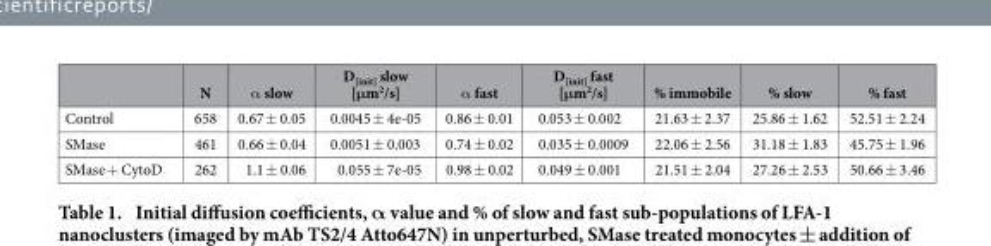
<table><thead><tr><td></td><td>N</td><td>α slow</td><td>D<sub>[init]</sub> slow [μm<sup>2</sup>/s]</td><td>α fast</td><td>D<sub>[init]</sub> fast [μm<sup>2</sup>/s]</td><td>% immobile</td><td>% slow</td><td>% fast</td></tr></thead><tbody><tr><td>Control</td><td>658</td><td>0.67 ± 0.05</td><td>0.0045 ± 4e-05</td><td>0.86 ± 0.01</td><td>0.053 ± 0.002</td><td>21.63 ± 2.37</td><td>25.86 ± 1.62</td><td>52.51 ± 2.24</td></tr><tr><td>SMase</td><td>461</td><td>0.66 ± 0.04</td><td>0.0051 ± 0.003</td><td>0.74 ± 0.02</td><td>0.035 ± 0.0009</td><td>22.06 ± 2.56</td><td>31.18 ± 1.83</td><td>45.75 ± 1.96</td></tr><tr><td>SMase + CytoD</td><td>262</td><td>1.1 ± 0.06</td><td>0.055 ± 7e-05</td><td>0.98 ± 0.02</td><td>0.049 ± 0.001</td><td>21.51 ± 2.04</td><td>27.26 ± 2.53</td><td>50.66 ± 3.46</td></tr></tbody></table>